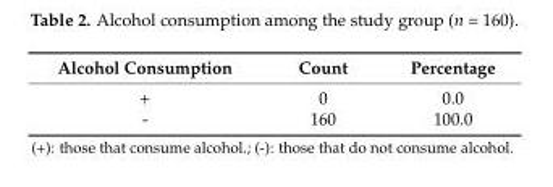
<table><thead><tr><td>Alcohol Consumption</td><td>Count</td><td>Percentage</td></tr></thead><tbody><tr><td>+</td><td>0</td><td>0.0</td></tr><tr><td>-</td><td>160</td><td>100.0</td></tr></tbody></table>